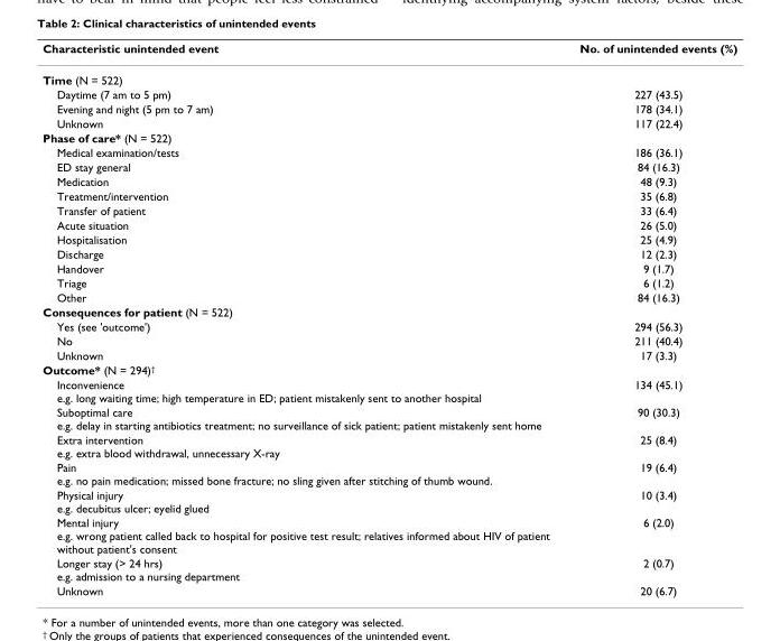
<table><thead><tr><td>Characteristic unintended event</td><td>No. of unintended events (%)</td></tr></thead><tbody><tr><td colspan="2">Time (N = 522)</td></tr><tr><td>Daytime (7 am to 5 pm)</td><td>227 (43.5)</td></tr><tr><td>Evening and night (5 pm to 7 am)</td><td>178 (34.1)</td></tr><tr><td>Unknown</td><td>117 (22.4)</td></tr><tr><td colspan="2">Phase of care* (N = 522)</td></tr><tr><td>Medical examination/tests</td><td>186 (36.1)</td></tr><tr><td>ED stay general</td><td>84 (16.3)</td></tr><tr><td>Medication</td><td>48 (9.3)</td></tr><tr><td>Treatment/intervention</td><td>35 (6.8)</td></tr><tr><td>Transfer of patient</td><td>33 (6.4)</td></tr><tr><td>Acute situation</td><td>26 (5.0)</td></tr><tr><td>Hospitalisation</td><td>25 (4.9)</td></tr><tr><td>Discharge</td><td>12 (2.3)</td></tr><tr><td>Handover</td><td>9 (1.7)</td></tr><tr><td>Triage</td><td>6 (1.2)</td></tr><tr><td>Other</td><td>84 (16.3)</td></tr><tr><td colspan="2">Consequences for patient (N = 522)</td></tr><tr><td>Yes (see &#x27;outcome&#x27;)</td><td>294 (56.3)</td></tr><tr><td>No</td><td>211 (40.4)</td></tr><tr><td>Unknown</td><td>17 (3.3)</td></tr><tr><td colspan="2">Outcome* (N = 294)<sup>†</sup></td></tr><tr><td>Inconvenience e.g. long waiting time; high temperature in ED; patient mistakenly sent to another hospital</td><td>134 (45.1)</td></tr><tr><td>Suboptimal care e.g. delay in starting antibiotics treatment; no surveillance of sick patient; patient mistakenly sent home</td><td>90 (30.3)</td></tr><tr><td>Extra intervention e.g. extra blood withdrawal, unnecessary X-ray</td><td>25 (8.4)</td></tr><tr><td>Pain e.g. no pain medication; missed bone fracture; no sling given after stitching of thumb wound.</td><td>19 (6.4)</td></tr><tr><td>Physical injury e.g. decubitus ulcer; eyelid glued</td><td>10 (3.4)</td></tr><tr><td>Mental injury e.g. wrong patient called back to hospital for positive test result; relatives informed about HIV of patient without patient&#x27;s consent</td><td>6 (2.0)</td></tr><tr><td>Longer stay (&gt; 24 hrs) e.g. admission to a nursing department</td><td>2 (0.7)</td></tr><tr><td>Unknown</td><td>20 (6.7)</td></tr></tbody></table>